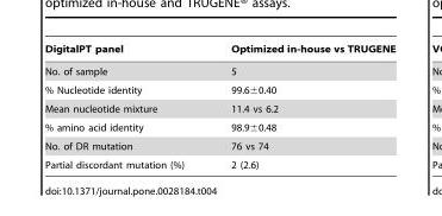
<table><thead><tr><td>DigitalPT panel</td><td>Optimized in-house vs TRUGENE</td></tr></thead><tbody><tr><td>No. of sample</td><td>5</td></tr><tr><td>% Nucleotide identity</td><td>99.6±0.40</td></tr><tr><td>Mean nucleotide mixture</td><td>11.4 vs 6.2</td></tr><tr><td>% amino acid identity</td><td>98.9±0.48</td></tr><tr><td>No. of DR mutation</td><td>76 vs 74</td></tr><tr><td>Partial discordant mutation (%)</td><td>2 (2.6)</td></tr></tbody></table>